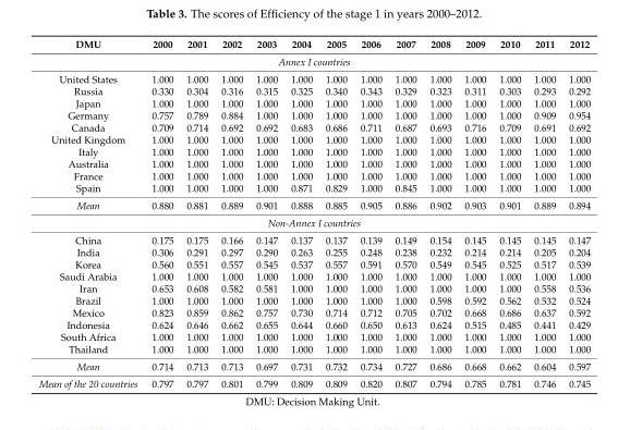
<table><thead><tr><td>DMU</td><td>2000</td><td>2001</td><td>2002</td><td>2003</td><td>2004</td><td>2005</td><td>2006</td><td>2007</td><td>2008</td><td>2009</td><td>2010</td><td>2011</td><td>2012</td></tr></thead><tbody><tr><td colspan="14">Annex I countries</td></tr><tr><td>United States</td><td>1.000</td><td>1.000</td><td>1.000</td><td>1.000</td><td>1.000</td><td>1.000</td><td>1.000</td><td>1.000</td><td>1.000</td><td>1.000</td><td>1.000</td><td>1.000</td><td>1.000</td></tr><tr><td>Russia</td><td>0.330</td><td>0.304</td><td>0.316</td><td>0.315</td><td>0.325</td><td>0.340</td><td>0.343</td><td>0.329</td><td>0.323</td><td>0.311</td><td>0.303</td><td>0.293</td><td>0.292</td></tr><tr><td>Japan</td><td>1.000</td><td>1.000</td><td>1.000</td><td>1.000</td><td>1.000</td><td>1.000</td><td>1.000</td><td>1.000</td><td>1.000</td><td>1.000</td><td>1.000</td><td>1.000</td><td>1.000</td></tr><tr><td>Germany</td><td>0.757</td><td>0.789</td><td>0.884</td><td>1.000</td><td>1.000</td><td>1.000</td><td>1.000</td><td>1.000</td><td>1.000</td><td>1.000</td><td>1.000</td><td>0.909</td><td>0.954</td></tr><tr><td>Canada</td><td>0.709</td><td>0.714</td><td>0.692</td><td>0.692</td><td>0.683</td><td>0.686</td><td>0.711</td><td>0.687</td><td>0.693</td><td>0.716</td><td>0.709</td><td>0.691</td><td>0.692</td></tr><tr><td>United Kingdom</td><td>1.000</td><td>1.000</td><td>1.000</td><td>1.000</td><td>1.000</td><td>1.000</td><td>1.000</td><td>1.000</td><td>1.000</td><td>1.000</td><td>1.000</td><td>1.000</td><td>1.000</td></tr><tr><td>Italy</td><td>1.000</td><td>1.000</td><td>1.000</td><td>1.000</td><td>1.000</td><td>1.000</td><td>1.000</td><td>1.000</td><td>1.000</td><td>1.000</td><td>1.000</td><td>1.000</td><td>1.000</td></tr><tr><td>Australia</td><td>1.000</td><td>1.000</td><td>1.000</td><td>1.000</td><td>1.000</td><td>1.000</td><td>1.000</td><td>1.000</td><td>1.000</td><td>1.000</td><td>1.000</td><td>1.000</td><td>1.000</td></tr><tr><td>France</td><td>1.000</td><td>1.000</td><td>1.000</td><td>1.000</td><td>1.000</td><td>1.000</td><td>1.000</td><td>1.000</td><td>1.000</td><td>1.000</td><td>1.000</td><td>1.000</td><td>1.000</td></tr><tr><td>Spain</td><td>1.000</td><td>1.000</td><td>1.000</td><td>1.000</td><td>0.871</td><td>0.829</td><td>1.000</td><td>0.845</td><td>1.000</td><td>1.000</td><td>1.000</td><td>1.000</td><td>1.000</td></tr><tr><td>Mean</td><td>0.880</td><td>0.881</td><td>0.889</td><td>0.901</td><td>0.888</td><td>0.885</td><td>0.905</td><td>0.886</td><td>0.902</td><td>0.903</td><td>0.901</td><td>0.889</td><td>0.894</td></tr><tr><td colspan="14">Non-Annex I countries</td></tr><tr><td>China</td><td>0.175</td><td>0.175</td><td>0.166</td><td>0.147</td><td>0.137</td><td>0.137</td><td>0.139</td><td>0.149</td><td>0.154</td><td>0.145</td><td>0.145</td><td>0.145</td><td>0.147</td></tr><tr><td>India</td><td>0.306</td><td>0.291</td><td>0.297</td><td>0.290</td><td>0.263</td><td>0.255</td><td>0.248</td><td>0.238</td><td>0.232</td><td>0.214</td><td>0.214</td><td>0.205</td><td>0.204</td></tr><tr><td>Korea</td><td>0.560</td><td>0.551</td><td>0.557</td><td>0.545</td><td>0.537</td><td>0.557</td><td>0.591</td><td>0.570</td><td>0.549</td><td>0.545</td><td>0.525</td><td>0.517</td><td>0.539</td></tr><tr><td>Saudi Arabia</td><td>1.000</td><td>1.000</td><td>1.000</td><td>1.000</td><td>1.000</td><td>1.000</td><td>1.000</td><td>1.000</td><td>1.000</td><td>1.000</td><td>1.000</td><td>1.000</td><td>1.000</td></tr><tr><td>Iran</td><td>0.653</td><td>0.608</td><td>0.582</td><td>0.581</td><td>1.000</td><td>1.000</td><td>1.000</td><td>1.000</td><td>1.000</td><td>1.000</td><td>1.000</td><td>0.558</td><td>0.536</td></tr><tr><td>Brazil</td><td>1.000</td><td>1.000</td><td>1.000</td><td>1.000</td><td>1.000</td><td>1.000</td><td>1.000</td><td>1.000</td><td>0.598</td><td>0.592</td><td>0.562</td><td>0.532</td><td>0.524</td></tr><tr><td>Mexico</td><td>0.823</td><td>0.859</td><td>0.862</td><td>0.757</td><td>0.730</td><td>0.714</td><td>0.712</td><td>0.705</td><td>0.702</td><td>0.668</td><td>0.686</td><td>0.637</td><td>0.592</td></tr><tr><td>Indonesia</td><td>0.624</td><td>0.646</td><td>0.662</td><td>0.655</td><td>0.644</td><td>0.660</td><td>0.650</td><td>0.613</td><td>0.624</td><td>0.515</td><td>0.485</td><td>0.441</td><td>0.429</td></tr><tr><td>South Africa</td><td>1.000</td><td>1.000</td><td>1.000</td><td>1.000</td><td>1.000</td><td>1.000</td><td>1.000</td><td>1.000</td><td>1.000</td><td>1.000</td><td>1.000</td><td>1.000</td><td>1.000</td></tr><tr><td>Thailand</td><td>1.000</td><td>1.000</td><td>1.000</td><td>1.000</td><td>1.000</td><td>1.000</td><td>1.000</td><td>1.000</td><td>1.000</td><td>1.000</td><td>1.000</td><td>1.000</td><td>1.000</td></tr><tr><td>Mean</td><td>0.714</td><td>0.713</td><td>0.713</td><td>0.697</td><td>0.731</td><td>0.732</td><td>0.734</td><td>0.727</td><td>0.686</td><td>0.668</td><td>0.662</td><td>0.604</td><td>0.597</td></tr><tr><td>Mean of the 20 countries</td><td>0.797</td><td>0.797</td><td>0.801</td><td>0.799</td><td>0.809</td><td>0.809</td><td>0.820</td><td>0.807</td><td>0.794</td><td>0.785</td><td>0.781</td><td>0.746</td><td>0.745</td></tr></tbody></table>